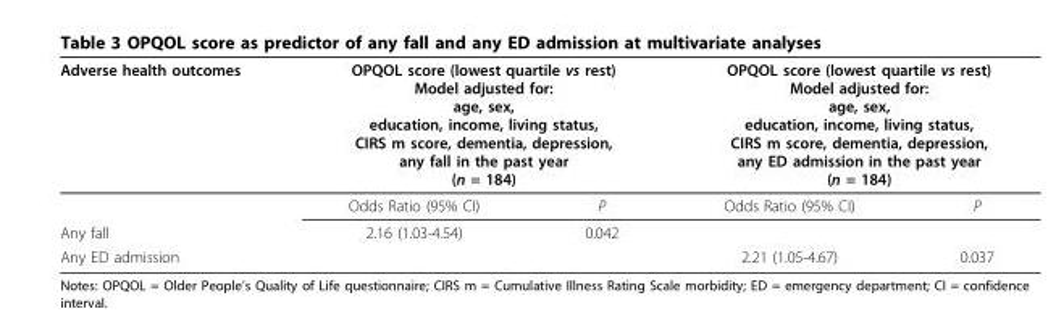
<table><thead><tr><td rowspan="2">Adverse health outcomes</td><td colspan="2">OPQOL score (lowest quartile vs rest) Model adjusted for: age, sex, education, income, living status, CIRS m score, dementia, depression, any fall in the past year (n = 184)</td><td colspan="2">OPQOL score (lowest quartile vs rest) Model adjusted for: age, sex, education, income, living status, CIRS m score, dementia, depression, any ED admission in the past year (n = 184)</td></tr><tr><td>Odds Ratio (95% CI)</td><td>P</td><td>Odds Ratio (95% CI)</td><td>P</td></tr></thead><tbody><tr><td>Any fall</td><td>2.16 (1.03-4.54)</td><td>0.042</td><td></td><td></td></tr><tr><td>Any ED admission</td><td></td><td></td><td>2.21 (1.05-4.67)</td><td>0.037</td></tr></tbody></table>